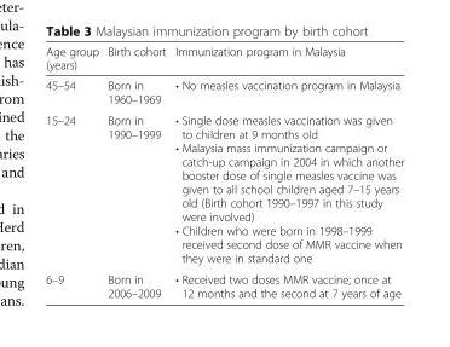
<table><thead><tr><td>Age group (years)</td><td>Birth cohort</td><td>Immunization program in Malaysia</td></tr></thead><tbody><tr><td>45–54</td><td>Born in 1960–1969</td><td>• No measles vaccination program in Malaysia</td></tr><tr><td>15–24</td><td>Born in 1990–1999</td><td>• Single dose measles vaccination was given to children at 9 months old • Malaysia mass immunization campaign or catch-up campaign in 2004 in which another booster dose of single measles vaccine was given to all school children aged 7–15 years old (Birth cohort 1990–1997 in this study were involved) • Children who were born in 1998–1999 received second dose of MMR vaccine when they were in standard one</td></tr><tr><td>6–9</td><td>Born in 2006–2009</td><td>• Received two doses MMR vaccine; once at 12 months and the second at 7 years of age</td></tr></tbody></table>